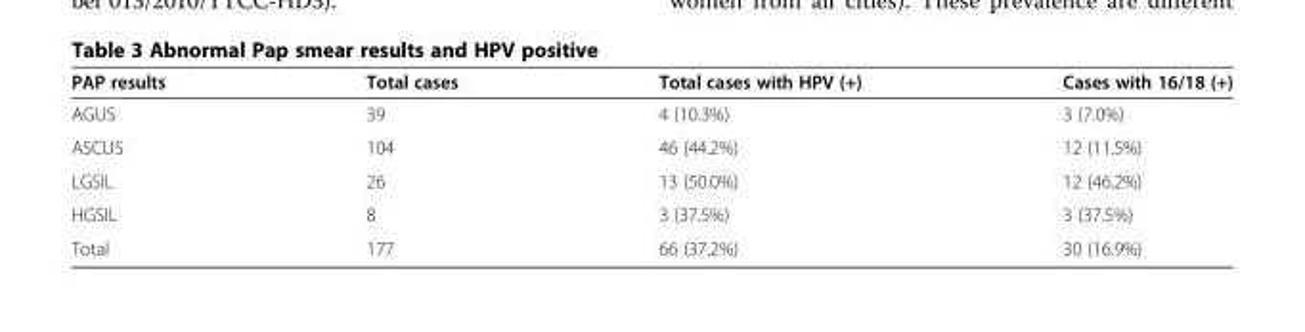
<table><thead><tr><td>PAP results</td><td>Total cases</td><td>Total cases with HPV (+)</td><td>Cases with 16/18 (+)</td></tr></thead><tbody><tr><td>AGUS</td><td>39</td><td>4 (10.3%)</td><td>3 (7.0%)</td></tr><tr><td>ASCUS</td><td>104</td><td>46 (44.2%)</td><td>12 (11.5%)</td></tr><tr><td>LGSIL</td><td>26</td><td>13 (50.0%)</td><td>12 (46.2%)</td></tr><tr><td>HGSIL</td><td>8</td><td>3 (37.5%)</td><td>3 (37.5%)</td></tr><tr><td>Total</td><td>177</td><td>66 (37.2%)</td><td>30 (16.9%)</td></tr></tbody></table>